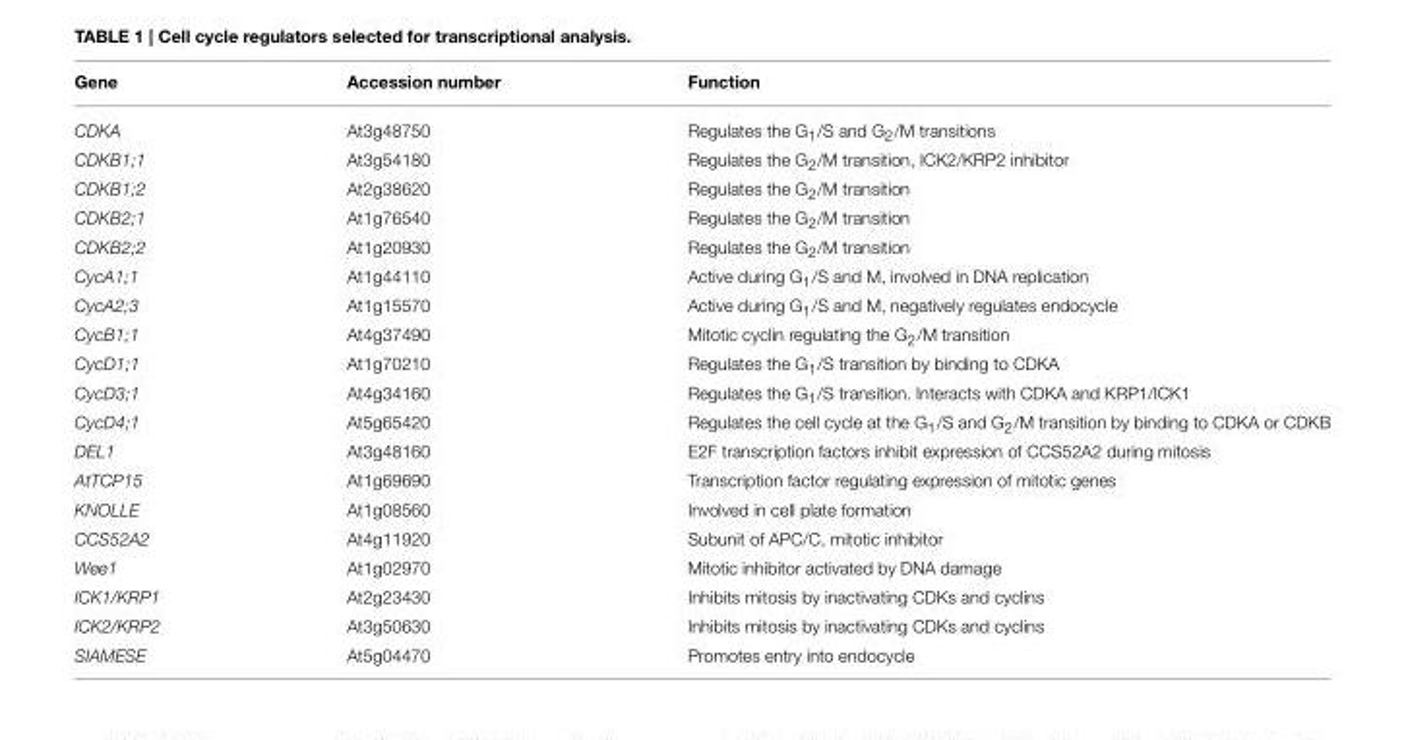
<table><thead><tr><td>Gene</td><td>Accession number</td><td>Function</td></tr></thead><tbody><tr><td>CDKA</td><td>At3g48750</td><td>Regulates the G<sub>1</sub>/S and G<sub>2</sub>/M transitions</td></tr><tr><td>CDKB1;1</td><td>At3g54180</td><td>Regulates the G<sub>2</sub>/M transition, ICK2/KRP2 inhibitor</td></tr><tr><td>CDKB1;2</td><td>At2g38620</td><td>Regulates the G<sub>2</sub>/M transition</td></tr><tr><td>CDKB2;1</td><td>At1g76540</td><td>Regulates the G<sub>2</sub>/M transition</td></tr><tr><td>CDKB2;2</td><td>At1g20930</td><td>Regulates the G<sub>2</sub>/M transition</td></tr><tr><td>CycA1;1</td><td>At1g44110</td><td>Active during G<sub>1</sub>/S and M, involved in DNA replication</td></tr><tr><td>CycA2;3</td><td>At1g15570</td><td>Active during G<sub>1</sub>/S and M, negatively regulates endocycle</td></tr><tr><td>CycB1;1</td><td>At4g37490</td><td>Mitotic cyclin regulating the G<sub>2</sub>/M transition</td></tr><tr><td>CycD1;1</td><td>At1g70210</td><td>Regulates the G<sub>1</sub>/S transition by binding to CDKA</td></tr><tr><td>CycD3;1</td><td>At4g34160</td><td>Regulates the G<sub>1</sub>/S transition. Interacts with CDKA and KRP1/ICK1</td></tr><tr><td>CycD4;1</td><td>At5g65420</td><td>Regulates the cell cycle at the G<sub>1</sub>/S and G<sub>2</sub>/M transition by binding to CDKA or CDKB</td></tr><tr><td>DEL1</td><td>At3g48160</td><td>E2F transcription factors inhibit expression of CCS52A2 during mitosis</td></tr><tr><td>AtTCP15</td><td>At1g69690</td><td>Transcription factor regulating expression of mitotic genes</td></tr><tr><td>KNOLLE</td><td>At1g08560</td><td>Involved in cell plate formation</td></tr><tr><td>CCS52A2</td><td>At4g11920</td><td>Subunit of APC/C, mitotic inhibitor</td></tr><tr><td>Wee1</td><td>At1g02970</td><td>Mitotic inhibitor activated by DNA damage</td></tr><tr><td>ICK1/KRP1</td><td>At2g23430</td><td>Inhibits mitosis by inactivating CDKs and cyclins</td></tr><tr><td>ICK2/KRP2</td><td>At3g50630</td><td>Inhibits mitosis by inactivating CDKs and cyclins</td></tr><tr><td>SIAMESE</td><td>At5g04470</td><td>Promotes entry into endocycle</td></tr></tbody></table>